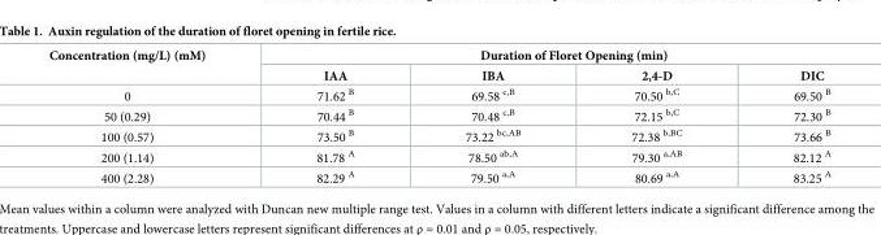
<table><thead><tr><td rowspan="2">Concentration (mg/L) (mM)</td><td colspan="4">Duration of Floret Opening (min)</td></tr><tr><td>IAA</td><td>IBA</td><td>2,4-D</td><td>DIC</td></tr></thead><tbody><tr><td>0</td><td>71.62 <sup>B</sup></td><td>69.58 <sup>c,B</sup></td><td>70.50 <sup>b,C</sup></td><td>69.50 <sup>B</sup></td></tr><tr><td>50 (0.29)</td><td>70.44 <sup>B</sup></td><td>70.48 <sup>c,B</sup></td><td>72.15 <sup>b,C</sup></td><td>72.30 <sup>B</sup></td></tr><tr><td>100 (0.57)</td><td>73.50 <sup>B</sup></td><td>73.22 <sup>bc,AB</sup></td><td>72.38 <sup>b,BC</sup></td><td>73.66 <sup>B</sup></td></tr><tr><td>200 (1.14)</td><td>81.78 <sup>A</sup></td><td>78.50 <sup>ab,A</sup></td><td>79.30 <sup>a,AB</sup></td><td>82.12 <sup>A</sup></td></tr><tr><td>400 (2.28)</td><td>82.29 <sup>A</sup></td><td>79.50 <sup>a,A</sup></td><td>80.69 <sup>a,A</sup></td><td>83.25 <sup>A</sup></td></tr></tbody></table>